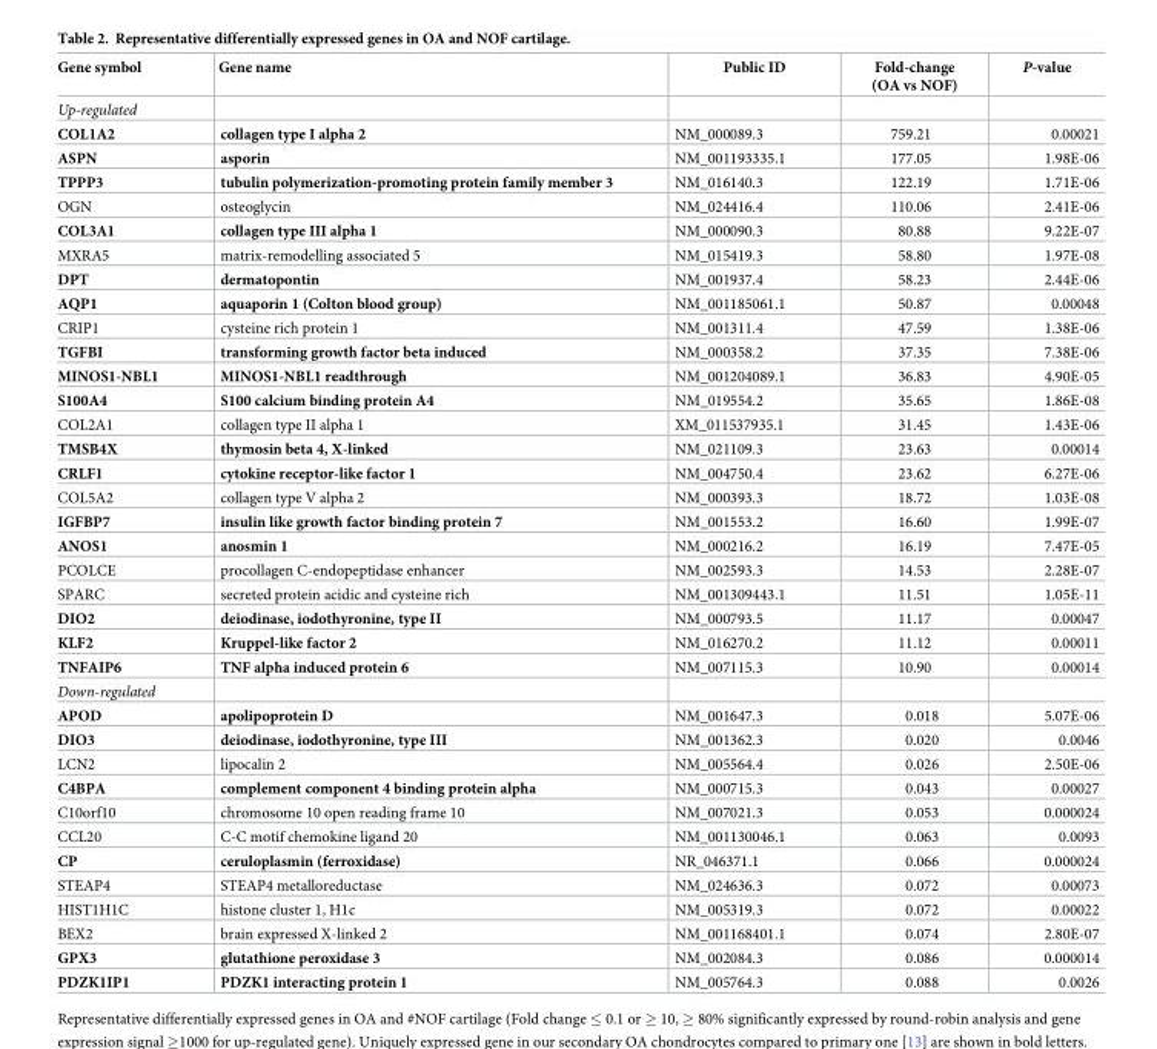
<table><thead><tr><td>Gene symbol</td><td>Gene name</td><td>Public ID</td><td>Fold-change (OA vs NOF)</td><td>P-value</td></tr></thead><tbody><tr><td colspan="5">Up-regulated</td></tr><tr><td>COL1A2</td><td>collagen type I alpha 2</td><td>NM_000089.3</td><td>759.21</td><td>0.00021</td></tr><tr><td>ASPN</td><td>asporin</td><td>NM_001193335.1</td><td>177.05</td><td>1.98E-06</td></tr><tr><td>TPPP3</td><td>tubulin polymerization-promoting protein family member 3</td><td>NM_016140.3</td><td>122.19</td><td>1.71E-06</td></tr><tr><td>OGN</td><td>osteoglycin</td><td>NM_024416.4</td><td>110.06</td><td>2.41E-06</td></tr><tr><td>COL3A1</td><td>collagen type III alpha 1</td><td>NM_000090.3</td><td>80.88</td><td>9.22E-07</td></tr><tr><td>MXRA5</td><td>matrix-remodelling associated 5</td><td>NM_015419.3</td><td>58.80</td><td>1.97E-08</td></tr><tr><td>DPT</td><td>dermatopontin</td><td>NM_001937.4</td><td>58.23</td><td>2.44E-06</td></tr><tr><td>AQP1</td><td>aquaporin 1 (Colton blood group)</td><td>NM_001185061.1</td><td>50.87</td><td>0.00048</td></tr><tr><td>CRIP1</td><td>cysteine rich protein 1</td><td>NM_001311.4</td><td>47.59</td><td>1.38E-06</td></tr><tr><td>TGFBI</td><td>transforming growth factor beta induced</td><td>NM_000358.2</td><td>37.35</td><td>7.38E-06</td></tr><tr><td>MINOS1-NBL1</td><td>MINOS1-NBL1 readthrough</td><td>NM_001204089.1</td><td>36.83</td><td>4.90E-05</td></tr><tr><td>S100A4</td><td>S100 calcium binding protein A4</td><td>NM_019554.2</td><td>35.65</td><td>1.86E-08</td></tr><tr><td>COL2A1</td><td>collagen type II alpha 1</td><td>XM_011537935.1</td><td>31.45</td><td>1.43E-06</td></tr><tr><td>TMSB4X</td><td>thymosin beta 4, X-linked</td><td>NM_021109.3</td><td>23.63</td><td>0.00014</td></tr><tr><td>CRLF1</td><td>cytokine receptor-like factor 1</td><td>NM_004750.4</td><td>23.62</td><td>6.27E-06</td></tr><tr><td>COL5A2</td><td>collagen type V alpha 2</td><td>NM_000393.3</td><td>18.72</td><td>1.03E-08</td></tr><tr><td>IGFBP7</td><td>insulin like growth factor binding protein 7</td><td>NM_001553.2</td><td>16.60</td><td>1.99E-07</td></tr><tr><td>ANOS1</td><td>anosmin 1</td><td>NM_000216.2</td><td>16.19</td><td>7.47E-05</td></tr><tr><td>PCOLCE</td><td>procollagen C-endopeptidase enhancer</td><td>NM_002593.3</td><td>14.53</td><td>2.28E-07</td></tr><tr><td>SPARC</td><td>secreted protein acidic and cysteine rich</td><td>NM_001309443.1</td><td>11.51</td><td>1.05E-11</td></tr><tr><td>DIO2</td><td>deiodinase, iodothyronine, type II</td><td>NM_000793.5</td><td>11.17</td><td>0.00047</td></tr><tr><td>KLF2</td><td>Kruppel-like factor 2</td><td>NM_016270.2</td><td>11.12</td><td>0.00011</td></tr><tr><td>TNFAIP6</td><td>TNF alpha induced protein 6</td><td>NM_007115.3</td><td>10.90</td><td>0.00014</td></tr><tr><td colspan="5">Down-regulated</td></tr><tr><td>APOD</td><td>apolipoprotein D</td><td>NM_001647.3</td><td>0.018</td><td>5.07E-06</td></tr><tr><td>DIO3</td><td>deiodinase, iodothyronine, type III</td><td>NM_001362.3</td><td>0.020</td><td>0.0046</td></tr><tr><td>LCN2</td><td>lipocalin 2</td><td>NM_005564.4</td><td>0.026</td><td>2.50E-06</td></tr><tr><td>C4BPA</td><td>complement component 4 binding protein alpha</td><td>NM_000715.3</td><td>0.043</td><td>0.00027</td></tr><tr><td>C10orf10</td><td>chromosome 10 open reading frame 10</td><td>NM_007021.3</td><td>0.053</td><td>0.000024</td></tr><tr><td>CCL20</td><td>C-C motif chemokine ligand 20</td><td>NM_001130046.1</td><td>0.063</td><td>0.0093</td></tr><tr><td>CP</td><td>ceruloplasmin (ferroxidase)</td><td>NR_046371.1</td><td>0.066</td><td>0.000024</td></tr><tr><td>STEAP4</td><td>STEAP4 metalloreductase</td><td>NM_024636.3</td><td>0.072</td><td>0.00073</td></tr><tr><td>HIST1H1C</td><td>histone cluster 1, H1c</td><td>NM_005319.3</td><td>0.072</td><td>0.00022</td></tr><tr><td>BEX2</td><td>brain expressed X-linked 2</td><td>NM_001168401.1</td><td>0.074</td><td>2.80E-07</td></tr><tr><td>GPX3</td><td>glutathione peroxidase 3</td><td>NM_002084.3</td><td>0.086</td><td>0.000014</td></tr><tr><td>PDZK1IP1</td><td>PDZK1 interacting protein 1</td><td>NM_005764.3</td><td>0.088</td><td>0.0026</td></tr></tbody></table>